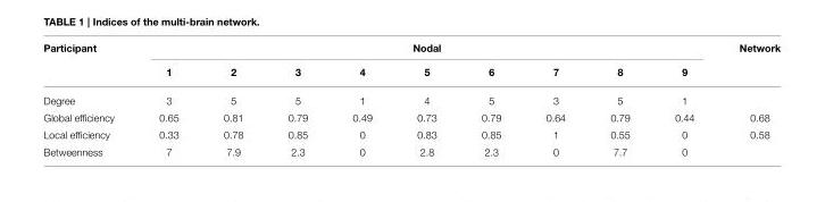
<table><thead><tr><td rowspan="2">Participant</td><td colspan="9">Nodal</td><td rowspan="2">Network</td></tr><tr><td>1</td><td>2</td><td>3</td><td>4</td><td>5</td><td>6</td><td>7</td><td>8</td><td>9</td></tr></thead><tbody><tr><td>Degree</td><td>3</td><td>5</td><td>5</td><td>1</td><td>4</td><td>5</td><td>3</td><td>5</td><td>1</td><td></td></tr><tr><td>Global efficiency</td><td>0.65</td><td>0.81</td><td>0.79</td><td>0.49</td><td>0.73</td><td>0.79</td><td>0.64</td><td>0.79</td><td>0.44</td><td>0.68</td></tr><tr><td>Local efficiency</td><td>0.33</td><td>0.78</td><td>0.85</td><td>0</td><td>0.83</td><td>0.85</td><td>1</td><td>0.55</td><td>0</td><td>0.58</td></tr><tr><td>Betweenness</td><td>7</td><td>7.9</td><td>2.3</td><td>0</td><td>2.8</td><td>2.3</td><td>0</td><td>7.7</td><td>0</td><td></td></tr></tbody></table>